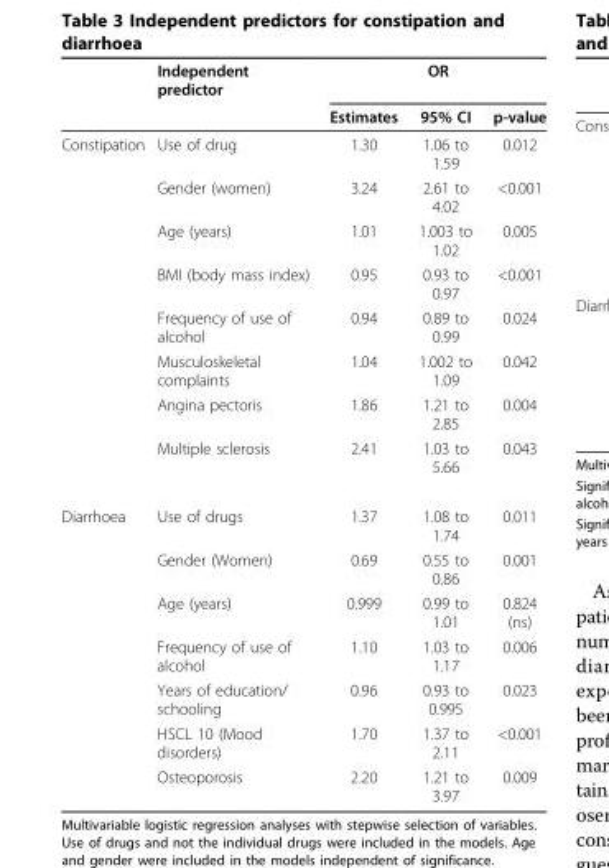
<table><thead><tr><td rowspan="2"></td><td rowspan="2">Independent predictor</td><td colspan="3">OR</td></tr><tr><td>Estimates</td><td>95% CI</td><td>p-value</td></tr></thead><tbody><tr><td rowspan="8">Constipation</td><td>Use of drug</td><td>1.30</td><td>1.06 to 1.59</td><td>0.012</td></tr><tr><td>Gender (women)</td><td>3.24</td><td>2.61 to 4.02</td><td>&lt;0.001</td></tr><tr><td>Age (years)</td><td>1.01</td><td>1.003 to 1.02</td><td>0.005</td></tr><tr><td>BMI (body mass index)</td><td>0.95</td><td>0.93 to 0.97</td><td>&lt;0.001</td></tr><tr><td>Frequency of use of alcohol</td><td>0.94</td><td>0.89 to 0.99</td><td>0.024</td></tr><tr><td>Musculoskeletal complaints</td><td>1.04</td><td>1.002 to 1.09</td><td>0.042</td></tr><tr><td>Angina pectoris</td><td>1.86</td><td>1.21 to 2.85</td><td>0.004</td></tr><tr><td>Multiple sclerosis</td><td>2.41</td><td>1.03 to 5.66</td><td>0.043</td></tr><tr><td rowspan="7">Diarrhoea</td><td>Use of drugs</td><td>1.37</td><td>1.08 to 1.74</td><td>0.011</td></tr><tr><td>Gender (Women)</td><td>0.69</td><td>0.55 to 0.86</td><td>0.001</td></tr><tr><td>Age (years)</td><td>0.999</td><td>0.99 to 1.01</td><td>0.824 (ns)</td></tr><tr><td>Frequency of use of alcohol</td><td>1.10</td><td>1.03 to 1.17</td><td>0.006</td></tr><tr><td>Years of education/ schooling</td><td>0.96</td><td>0.93 to 0.995</td><td>0.023</td></tr><tr><td>HSCL 10 (Mood disorders)</td><td>1.70</td><td>1.37 to 2.11</td><td>&lt;0.001</td></tr><tr><td>Osteoporosis</td><td>2.20</td><td>1.21 to 3.97</td><td>0.009</td></tr></tbody></table>